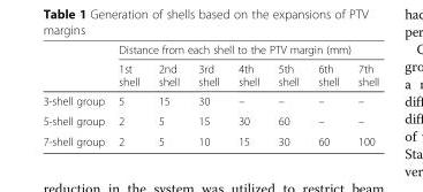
<table><thead><tr><td rowspan="2"></td><td colspan="7">Distance from each shell to the PTV margin (mm)</td></tr><tr><td>1st shell</td><td>2nd shell</td><td>3rd shell</td><td>4th shell</td><td>5th shell</td><td>6th shell</td><td>7th shell</td></tr></thead><tbody><tr><td>3-shell group</td><td>5</td><td>15</td><td>30</td><td>–</td><td>–</td><td>–</td><td>–</td></tr><tr><td>5-shell group</td><td>2</td><td>5</td><td>15</td><td>30</td><td>60</td><td>–</td><td>–</td></tr><tr><td>7-shell group</td><td>2</td><td>5</td><td>10</td><td>15</td><td>30</td><td>60</td><td>100</td></tr></tbody></table>